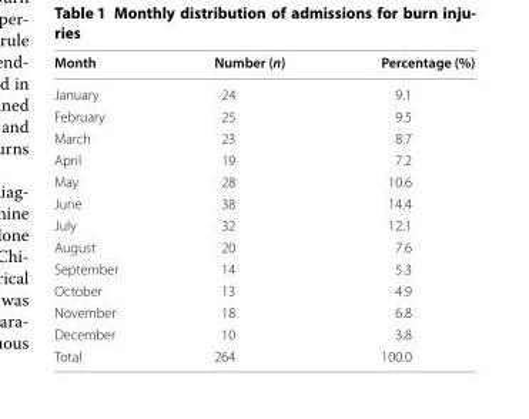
<table><thead><tr><td>Month</td><td>Number (n)</td><td>Percentage (%)</td></tr></thead><tbody><tr><td>January</td><td>24</td><td>9.1</td></tr><tr><td>February</td><td>25</td><td>9.5</td></tr><tr><td>March</td><td>23</td><td>8.7</td></tr><tr><td>April</td><td>19</td><td>7.2</td></tr><tr><td>May</td><td>28</td><td>10.6</td></tr><tr><td>June</td><td>38</td><td>14.4</td></tr><tr><td>July</td><td>32</td><td>12.1</td></tr><tr><td>August</td><td>20</td><td>7.6</td></tr><tr><td>September</td><td>14</td><td>5.3</td></tr><tr><td>October</td><td>13</td><td>4.9</td></tr><tr><td>November</td><td>18</td><td>6.8</td></tr><tr><td>December</td><td>10</td><td>3.8</td></tr><tr><td>Total</td><td>264</td><td>100.0</td></tr></tbody></table>